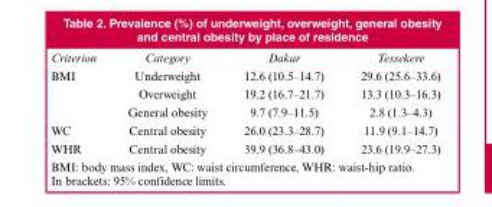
<table><thead><tr><td>Criterion</td><td>Category</td><td>Dakar</td><td>Tessekere</td></tr></thead><tbody><tr><td rowspan="3">BMI</td><td>Underweight</td><td>12.6 (10.5–14.7)</td><td>29.6 (25.6–33.6)</td></tr><tr><td>Overweight</td><td>19.2 (16.7–21.7)</td><td>13.3 (10.3–16.3)</td></tr><tr><td>General obesity</td><td>9.7 (7.9–11.5)</td><td>2.8 (1.3–4.3)</td></tr><tr><td>WC</td><td>Central obesity</td><td>26.0 (23.3–28.7)</td><td>11.9 (9.1–14.7)</td></tr><tr><td>WHR</td><td>Central obesity</td><td>39.9 (36.8–43.0)</td><td>23.6 (19.9–27.3)</td></tr></tbody></table>